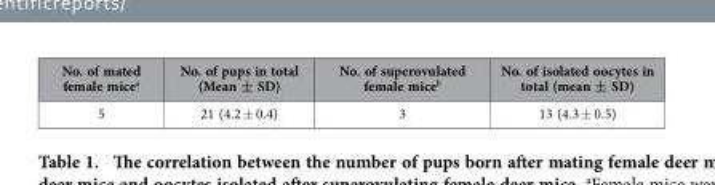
<table><thead><tr><td>No. of mated female mice<sup>a</sup></td><td>No. of pups in total (Mean ± SD)</td><td>No. of superovulated female mice<sup>b</sup></td><td>No. of isolated oocytes in total (mean ± SD)</td></tr></thead><tbody><tr><td>5</td><td>21 (4.2 ± 0.4)</td><td>3</td><td>13 (4.3 ± 0.5)</td></tr></tbody></table>